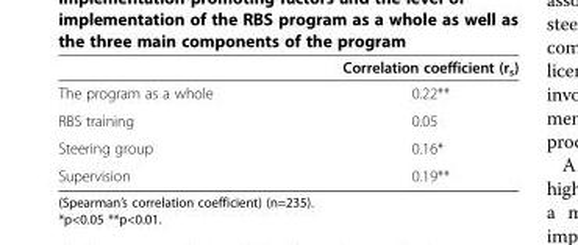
<table><thead><tr><td></td><td>Correlation coefficient (r<sub>s</sub>)</td></tr></thead><tbody><tr><td>The program as a whole</td><td>0.22**</td></tr><tr><td>RBS training</td><td>0.05</td></tr><tr><td>Steering group</td><td>0.16*</td></tr><tr><td>Supervision</td><td>0.19**</td></tr></tbody></table>